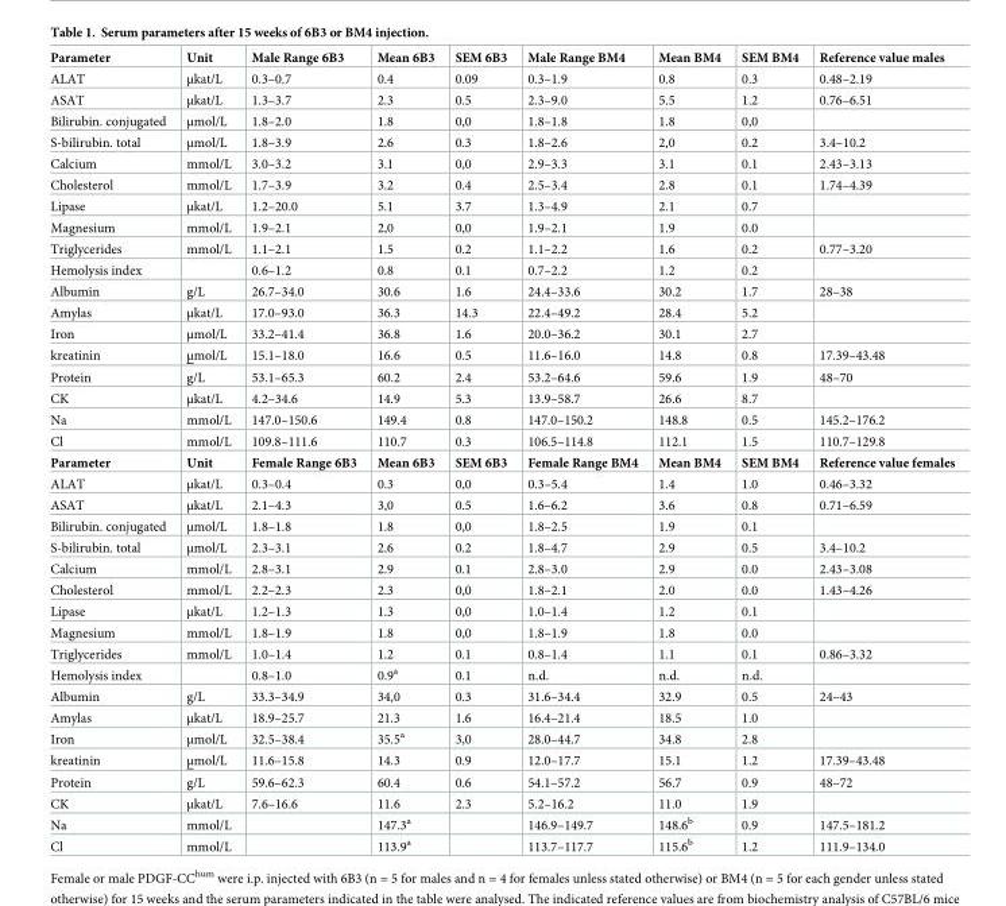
<table><tbody><tr><td>Parameter</td><td>Unit</td><td>Male Range 6B3</td><td>Mean 6B3</td><td>SEM 6B3</td><td>Male Range BM4</td><td>Mean BM4</td><td>SEM BM4</td><td>Reference value males</td></tr><tr><td>ALAT</td><td>μkat/L</td><td>0.3–0.7</td><td>0.4</td><td>0.09</td><td>0.3–1.9</td><td>0.8</td><td>0.3</td><td>0.48–2.19</td></tr><tr><td>ASAT</td><td>μkat/L</td><td>1.3–3.7</td><td>2.3</td><td>0.5</td><td>2.3–9.0</td><td>5.5</td><td>1.2</td><td>0.76–6.51</td></tr><tr><td>Bilirubin. conjugated</td><td>μmol/L</td><td>1.8–2.0</td><td>1.8</td><td>0,0</td><td>1.8–1.8</td><td>1.8</td><td>0,0</td><td></td></tr><tr><td>S-bilirubin. total</td><td>μmol/L</td><td>1.8–3.9</td><td>2.6</td><td>0.3</td><td>1.8–2.6</td><td>2,0</td><td>0.2</td><td>3.4–10.2</td></tr><tr><td>Calcium</td><td>mmol/L</td><td>3.0–3.2</td><td>3.1</td><td>0,0</td><td>2.9–3.3</td><td>3.1</td><td>0.1</td><td>2.43–3.13</td></tr><tr><td>Cholesterol</td><td>mmol/L</td><td>1.7–3.9</td><td>3.2</td><td>0.4</td><td>2.5–3.4</td><td>2.8</td><td>0.1</td><td>1.74–4.39</td></tr><tr><td>Lipase</td><td>μkat/L</td><td>1.2–20.0</td><td>5.1</td><td>3.7</td><td>1.3–4.9</td><td>2.1</td><td>0.7</td><td></td></tr><tr><td>Magnesium</td><td>mmol/L</td><td>1.9–2.1</td><td>2,0</td><td>0,0</td><td>1.9–2.1</td><td>1.9</td><td>0.0</td><td></td></tr><tr><td>Triglycerides</td><td>mmol/L</td><td>1.1–2.1</td><td>1.5</td><td>0.2</td><td>1.1–2.2</td><td>1.6</td><td>0.2</td><td>0.77–3.20</td></tr><tr><td>Hemolysis index</td><td></td><td>0.6–1.2</td><td>0.8</td><td>0.1</td><td>0.7–2.2</td><td>1.2</td><td>0.2</td><td></td></tr><tr><td>Albumin</td><td>g/L</td><td>26.7–34.0</td><td>30.6</td><td>1.6</td><td>24.4–33.6</td><td>30.2</td><td>1.7</td><td>28–38</td></tr><tr><td>Amylas</td><td>μkat/L</td><td>17.0–93.0</td><td>36.3</td><td>14.3</td><td>22.4–49.2</td><td>28.4</td><td>5.2</td><td></td></tr><tr><td>Iron</td><td>μmol/L</td><td>33.2–41.4</td><td>36.8</td><td>1.6</td><td>20.0–36.2</td><td>30.1</td><td>2.7</td><td></td></tr><tr><td>kreatinin</td><td>μmol/L</td><td>15.1–18.0</td><td>16.6</td><td>0.5</td><td>11.6–16.0</td><td>14.8</td><td>0.8</td><td>17.39–43.48</td></tr><tr><td>Protein</td><td>g/L</td><td>53.1–65.3</td><td>60.2</td><td>2.4</td><td>53.2–64.6</td><td>59.6</td><td>1.9</td><td>48–70</td></tr><tr><td>CK</td><td>μkat/L</td><td>4.2–34.6</td><td>14.9</td><td>5.3</td><td>13.9–58.7</td><td>26.6</td><td>8.7</td><td></td></tr><tr><td>Na</td><td>mmol/L</td><td>147.0–150.6</td><td>149.4</td><td>0.8</td><td>147.0–150.2</td><td>148.8</td><td>0.5</td><td>145.2–176.2</td></tr><tr><td>Cl</td><td>mmol/L</td><td>109.8–111.6</td><td>110.7</td><td>0.3</td><td>106.5–114.8</td><td>112.1</td><td>1.5</td><td>110.7–129.8</td></tr><tr><td>Parameter</td><td>Unit</td><td>Female Range 6B3</td><td>Mean 6B3</td><td>SEM 6B3</td><td>Female Range BM4</td><td>Mean BM4</td><td>SEM BM4</td><td>Reference value females</td></tr><tr><td>ALAT</td><td>μkat/L</td><td>0.3–0.4</td><td>0.3</td><td>0,0</td><td>0.3–5.4</td><td>1.4</td><td>1.0</td><td>0.46–3.32</td></tr><tr><td>ASAT</td><td>μkat/L</td><td>2.1–4.3</td><td>3,0</td><td>0.5</td><td>1.6–6.2</td><td>3.6</td><td>0.8</td><td>0.71–6.59</td></tr><tr><td>Bilirubin. conjugated</td><td>μmol/L</td><td>1.8–1.8</td><td>1.8</td><td>0,0</td><td>1.8–2.5</td><td>1.9</td><td>0.1</td><td></td></tr><tr><td>S-bilirubin. total</td><td>μmol/L</td><td>2.3–3.1</td><td>2.6</td><td>0.2</td><td>1.8–4.7</td><td>2.9</td><td>0.5</td><td>3.4–10.2</td></tr><tr><td>Calcium</td><td>mmol/L</td><td>2.8–3.1</td><td>2.9</td><td>0.1</td><td>2.8–3.0</td><td>2.9</td><td>0.0</td><td>2.43–3.08</td></tr><tr><td>Cholesterol</td><td>mmol/L</td><td>2.2–2.3</td><td>2.3</td><td>0,0</td><td>1.8–2.1</td><td>2.0</td><td>0.0</td><td>1.43–4.26</td></tr><tr><td>Lipase</td><td>μkat/L</td><td>1.2–1.3</td><td>1.3</td><td>0,0</td><td>1.0–1.4</td><td>1.2</td><td>0.1</td><td></td></tr><tr><td>Magnesium</td><td>mmol/L</td><td>1.8–1.9</td><td>1.8</td><td>0,0</td><td>1.8–1.9</td><td>1.8</td><td>0.0</td><td></td></tr><tr><td>Triglycerides</td><td>mmol/L</td><td>1.0–1.4</td><td>1.2</td><td>0.1</td><td>0.8–1.4</td><td>1.1</td><td>0.1</td><td>0.86–3.32</td></tr><tr><td>Hemolysis index</td><td></td><td>0.8–1.0</td><td>0.9<sup>a</sup></td><td>0.1</td><td>n.d.</td><td>n.d.</td><td>n.d.</td><td></td></tr><tr><td>Albumin</td><td>g/L</td><td>33.3–34.9</td><td>34,0</td><td>0.3</td><td>31.6–34.4</td><td>32.9</td><td>0.5</td><td>24–43</td></tr><tr><td>Amylas</td><td>μkat/L</td><td>18.9–25.7</td><td>21.3</td><td>1.6</td><td>16.4–21.4</td><td>18.5</td><td>1.0</td><td></td></tr><tr><td>Iron</td><td>μmol/L</td><td>32.5–38.4</td><td>35.5<sup>a</sup></td><td>3,0</td><td>28.0–44.7</td><td>34.8</td><td>2.8</td><td></td></tr><tr><td>kreatinin</td><td>μmol/L</td><td>11.6–15.8</td><td>14.3</td><td>0.9</td><td>12.0–17.7</td><td>15.1</td><td>1.2</td><td>17.39–43.48</td></tr><tr><td>Protein</td><td>g/L</td><td>59.6–62.3</td><td>60.4</td><td>0.6</td><td>54.1–57.2</td><td>56.7</td><td>0.9</td><td>48–72</td></tr><tr><td>CK</td><td>μkat/L</td><td>7.6–16.6</td><td>11.6</td><td>2.3</td><td>5.2–16.2</td><td>11.0</td><td>1.9</td><td></td></tr><tr><td>Na</td><td>mmol/L</td><td></td><td>147.3<sup>a</sup></td><td></td><td>146.9–149.7</td><td>148.6<sup>b</sup></td><td>0.9</td><td>147.5–181.2</td></tr><tr><td>Cl</td><td>mmol/L</td><td></td><td>113.9<sup>a</sup></td><td></td><td>113.7–117.7</td><td>115.6<sup>b</sup></td><td>1.2</td><td>111.9–134.0</td></tr></tbody></table>